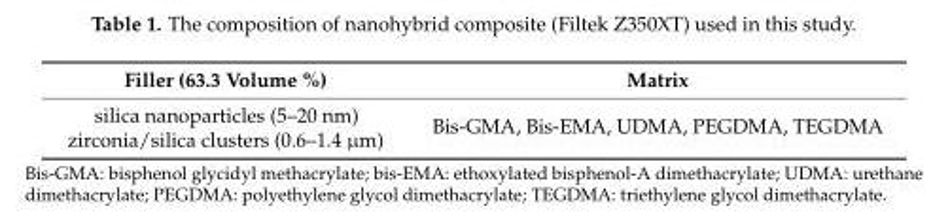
<table><thead><tr><td>Filler (63.3 Volume %)</td><td>Matrix</td></tr></thead><tbody><tr><td>silica nanoparticles (5–20 nm) zirconia/silica clusters (0.6–1.4 µm)</td><td>Bis-GMA, Bis-EMA, UDMA, PEGDMA, TEGDMA</td></tr></tbody></table>